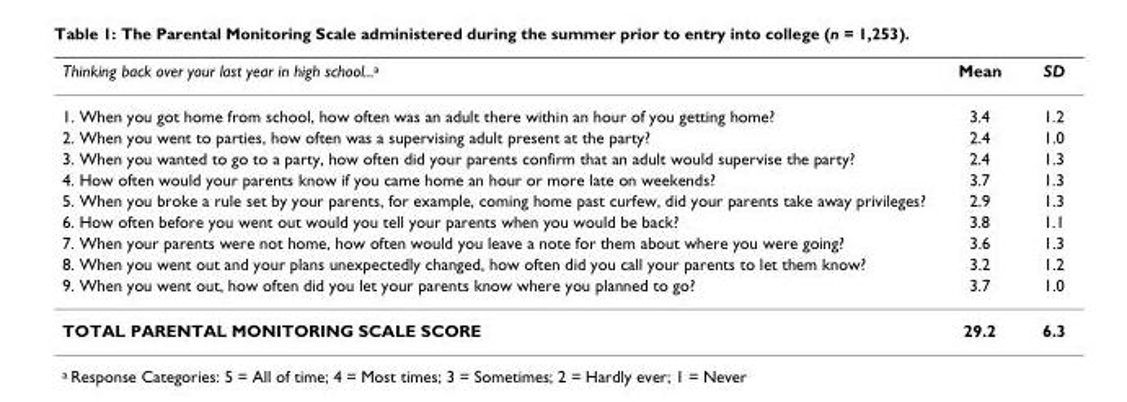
<table><thead><tr><td>Thinking back over your last year in high school...<sup>a</sup></td><td>Mean</td><td>SD</td></tr></thead><tbody><tr><td>1. When you got home from school, how often was an adult there within an hour of you getting home?</td><td>3.4</td><td>1.2</td></tr><tr><td>2. When you went to parties, how often was a supervising adult present at the party?</td><td>2.4</td><td>1.0</td></tr><tr><td>3. When you wanted to go to a party, how often did your parents confirm that an adult would supervise the party?</td><td>2.4</td><td>1.3</td></tr><tr><td>4. How often would your parents know if you came home an hour or more late on weekends?</td><td>3.7</td><td>1.3</td></tr><tr><td>5. When you broke a rule set by your parents, for example, coming home past curfew, did your parents take away privileges?</td><td>2.9</td><td>1.3</td></tr><tr><td>6. How often before you went out would you tell your parents when you would be back?</td><td>3.8</td><td>1.1</td></tr><tr><td>7. When your parents were not home, how often would you leave a note for them about where you were going?</td><td>3.6</td><td>1.3</td></tr><tr><td>8. When you went out and your plans unexpectedly changed, how often did you call your parents to let them know?</td><td>3.2</td><td>1.2</td></tr><tr><td>9. When you went out, how often did you let your parents know where you planned to go?</td><td>3.7</td><td>1.0</td></tr><tr><td>TOTAL PARENTAL MONITORING SCALE SCORE</td><td>29.2</td><td>6.3</td></tr></tbody></table>